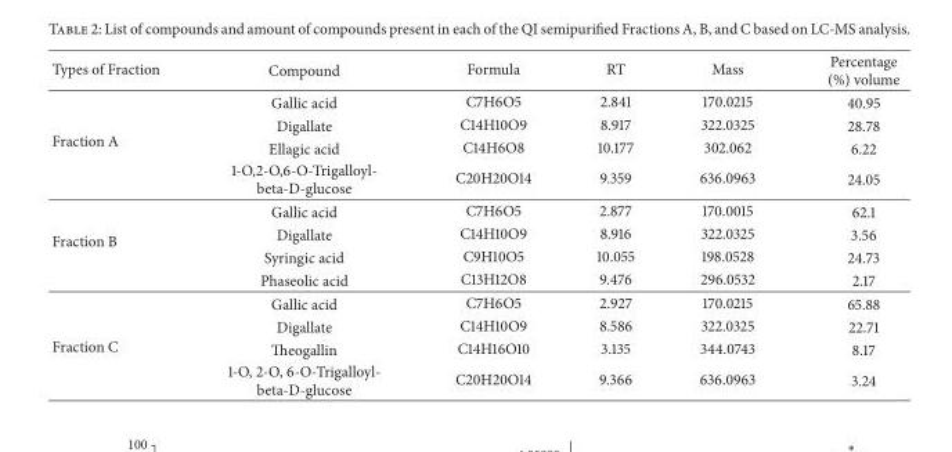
<table><thead><tr><td>Types of Fraction</td><td>Compound</td><td>Formula</td><td>RT</td><td>Mass</td><td>Percentage (%) volume</td></tr></thead><tbody><tr><td rowspan="4">Fraction A</td><td>Gallic acid</td><td>C7H6O5</td><td>2.841</td><td>170.0215</td><td>40.95</td></tr><tr><td>Digallate</td><td>C14H10O9</td><td>8.917</td><td>322.0325</td><td>28.78</td></tr><tr><td>Ellagic acid</td><td>C14H6O8</td><td>10.177</td><td>302.062</td><td>6.22</td></tr><tr><td>1-O,2-O,6-O-Trigalloyl- beta-D-glucose</td><td>C20H20O14</td><td>9.359</td><td>636.0963</td><td>24.05</td></tr><tr><td rowspan="4">Fraction B</td><td>Gallic acid</td><td>C7H6O5</td><td>2.877</td><td>170.0015</td><td>62.1</td></tr><tr><td>Digallate</td><td>C14H10O9</td><td>8.916</td><td>322.0325</td><td>3.56</td></tr><tr><td>Syringic acid</td><td>C9H10O5</td><td>10.055</td><td>198.0528</td><td>24.73</td></tr><tr><td>Phaseolic acid</td><td>C13H12O8</td><td>9.476</td><td>296.0532</td><td>2.17</td></tr><tr><td rowspan="4">Fraction C</td><td>Gallic acid</td><td>C7H6O5</td><td>2.927</td><td>170.0215</td><td>65.88</td></tr><tr><td>Digallate</td><td>C14H10O9</td><td>8.586</td><td>322.0325</td><td>22.71</td></tr><tr><td>Theogallin</td><td>C14H16O10</td><td>3.135</td><td>344.0743</td><td>8.17</td></tr><tr><td>1-O, 2-O, 6-O-Trigalloyl- beta-D-glucose</td><td>C20H20O14</td><td>9.366</td><td>636.0963</td><td>3.24</td></tr></tbody></table>